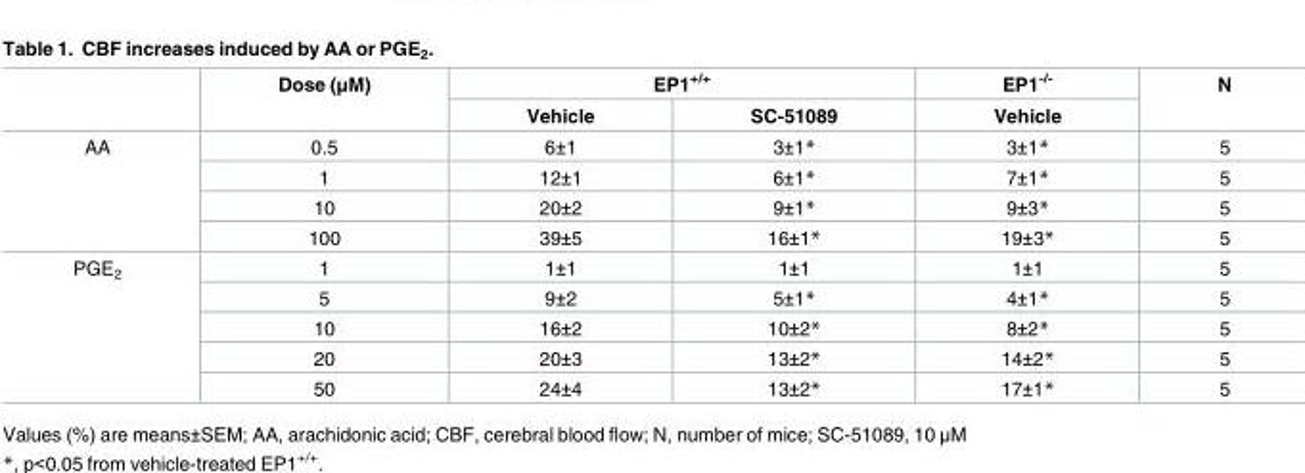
<table><thead><tr><td rowspan="2"></td><td rowspan="2">Dose (μM)</td><td colspan="2">EP1<sup>+/+</sup></td><td rowspan="2">EP1<sup>-/-</sup> Vehicle</td><td rowspan="2">N</td></tr><tr><td>Vehicle</td><td>SC-51089</td></tr></thead><tbody><tr><td rowspan="4">AA</td><td>0.5</td><td>6±1</td><td>3±1*</td><td>3±1*</td><td>5</td></tr><tr><td>1</td><td>12±1</td><td>6±1*</td><td>7±1*</td><td>5</td></tr><tr><td>10</td><td>20±2</td><td>9±1*</td><td>9±3*</td><td>5</td></tr><tr><td>100</td><td>39±5</td><td>16±1*</td><td>19±3*</td><td>5</td></tr><tr><td rowspan="5">PGE<sub>2</sub></td><td>1</td><td>1±1</td><td>1±1</td><td>1±1</td><td>5</td></tr><tr><td>5</td><td>9±2</td><td>5±1*</td><td>4±1*</td><td>5</td></tr><tr><td>10</td><td>16±2</td><td>10±2*</td><td>8±2*</td><td>5</td></tr><tr><td>20</td><td>20±3</td><td>13±2*</td><td>14±2*</td><td>5</td></tr><tr><td>50</td><td>24±4</td><td>13±2*</td><td>17±1*</td><td>5</td></tr></tbody></table>